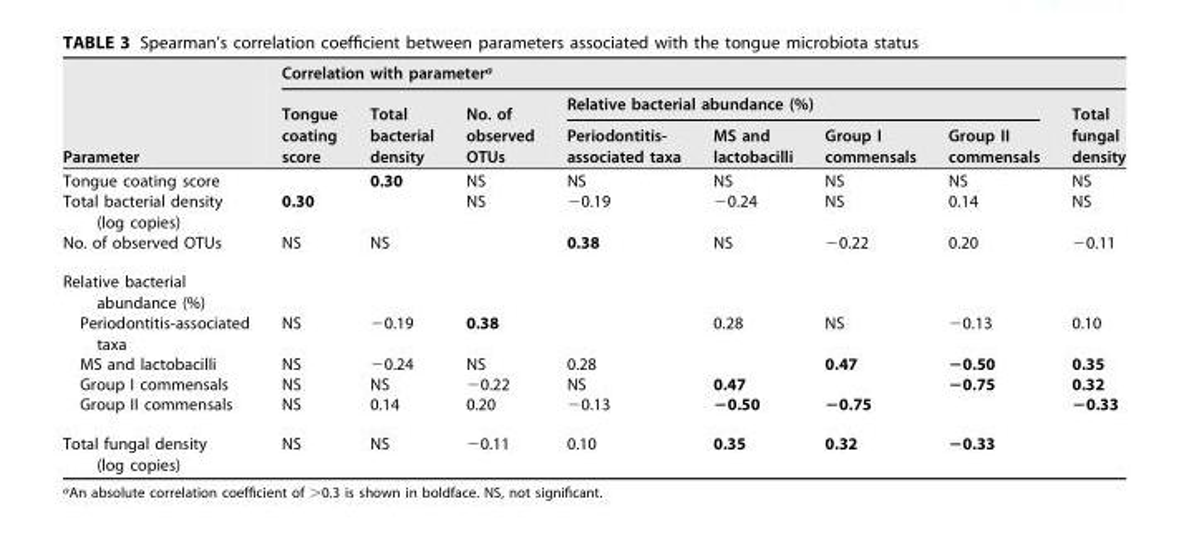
<table><thead><tr><td rowspan="3">Parameter</td><td colspan="8">Correlation with parameter<sup>a</sup></td></tr><tr><td rowspan="2">Tongue coating score</td><td rowspan="2">Total bacterial density</td><td rowspan="2">No. of observed OTUs</td><td colspan="4">Relative bacterial abundance (%)</td><td rowspan="2">Total fungal density</td></tr><tr><td>Periodontitis- associated taxa</td><td>MS and lactobacilli</td><td>Group I commensals</td><td>Group II commensals</td></tr></thead><tbody><tr><td>Tongue coating score</td><td></td><td>0.30</td><td>NS</td><td>NS</td><td>NS</td><td>NS</td><td>NS</td><td>NS</td></tr><tr><td>Total bacterial density (log copies)</td><td>0.30</td><td></td><td>NS</td><td>−0.19</td><td>−0.24</td><td>NS</td><td>0.14</td><td>NS</td></tr><tr><td>No. of observed OTUs</td><td>NS</td><td>NS</td><td></td><td>0.38</td><td>NS</td><td>−0.22</td><td>0.20</td><td>−0.11</td></tr><tr><td colspan="9">Relative bacterial abundance (%)</td></tr><tr><td>Periodontitis-associated taxa</td><td>NS</td><td>−0.19</td><td>0.38</td><td></td><td>0.28</td><td>NS</td><td>−0.13</td><td>0.10</td></tr><tr><td>MS and lactobacilli</td><td>NS</td><td>−0.24</td><td>NS</td><td>0.28</td><td></td><td>0.47</td><td>−0.50</td><td>0.35</td></tr><tr><td>Group I commensals</td><td>NS</td><td>NS</td><td>−0.22</td><td>NS</td><td>0.47</td><td></td><td>−0.75</td><td>0.32</td></tr><tr><td>Group II commensals</td><td>NS</td><td>0.14</td><td>0.20</td><td>−0.13</td><td>−0.50</td><td>−0.75</td><td></td><td>−0.33</td></tr><tr><td>Total fungal density (log copies)</td><td>NS</td><td>NS</td><td>−0.11</td><td>0.10</td><td>0.35</td><td>0.32</td><td>−0.33</td><td></td></tr></tbody></table>